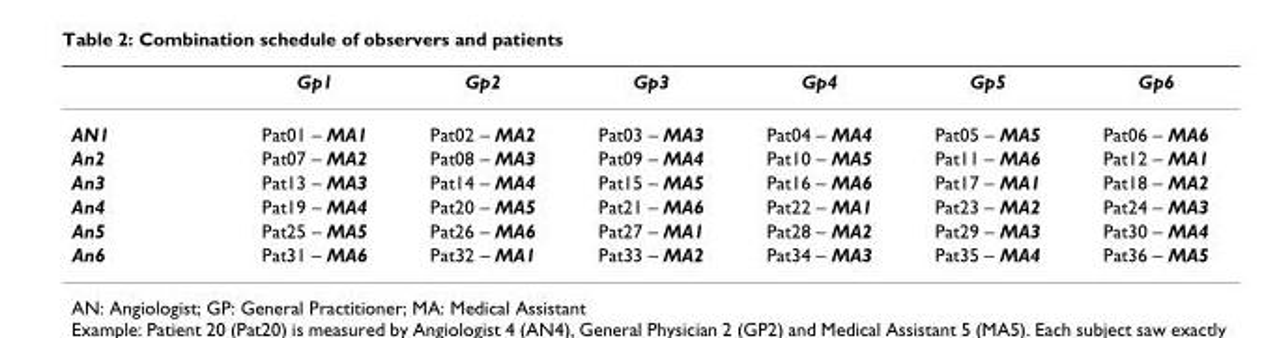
<table><thead><tr><td></td><td>Gp1</td><td>Gp2</td><td>Gp3</td><td>Gp4</td><td>Gp5</td><td>Gp6</td></tr></thead><tbody><tr><td>AN1</td><td>Pat01 – MA1</td><td>Pat02 – MA2</td><td>Pat03 – MA3</td><td>Pat04 – MA4</td><td>Pat05 – MA5</td><td>Pat06 – MA6</td></tr><tr><td>An2</td><td>Pat07 – MA2</td><td>Pat08 – MA3</td><td>Pat09 – MA4</td><td>Pat10 – MA5</td><td>Pat11 – MA6</td><td>Pat12 – MA1</td></tr><tr><td>An3</td><td>Pat13 – MA3</td><td>Pat14 – MA4</td><td>Pat15 – MA5</td><td>Pat16 – MA6</td><td>Pat17 – MA1</td><td>Pat18 – MA2</td></tr><tr><td>An4</td><td>Pat19 – MA4</td><td>Pat20 – MA5</td><td>Pat21 – MA6</td><td>Pat22 – MA1</td><td>Pat23 – MA2</td><td>Pat24 – MA3</td></tr><tr><td>An5</td><td>Pat25 – MA5</td><td>Pat26 – MA6</td><td>Pat27 – MA1</td><td>Pat28 – MA2</td><td>Pat29 – MA3</td><td>Pat30 – MA4</td></tr><tr><td>An6</td><td>Pat31 – MA6</td><td>Pat32 – MA1</td><td>Pat33 – MA2</td><td>Pat34 – MA3</td><td>Pat35 – MA4</td><td>Pat36 – MA5</td></tr></tbody></table>